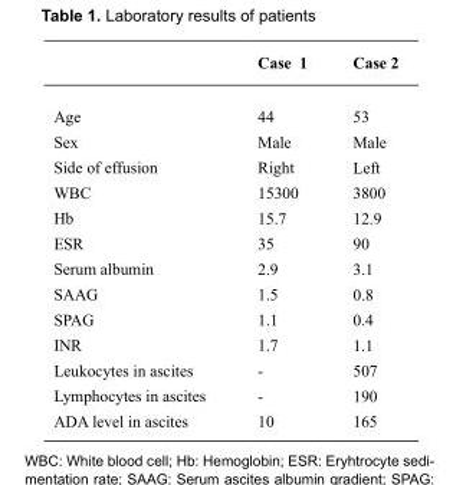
<table><thead><tr><td></td><td>Case 1</td><td>Case 2</td></tr></thead><tbody><tr><td>Age</td><td>44</td><td>53</td></tr><tr><td>Sex</td><td>Male</td><td>Male</td></tr><tr><td>Side of effusion</td><td>Right</td><td>Left</td></tr><tr><td>WBC</td><td>15300</td><td>3800</td></tr><tr><td>Hb</td><td>15.7</td><td>12.9</td></tr><tr><td>ESR</td><td>35</td><td>90</td></tr><tr><td>Serum albumin</td><td>2.9</td><td>3.1</td></tr><tr><td>SAAG</td><td>1.5</td><td>0.8</td></tr><tr><td>SPAG</td><td>1.1</td><td>0.4</td></tr><tr><td>INR</td><td>1.7</td><td>1.1</td></tr><tr><td>Leukocytes in ascites</td><td>-</td><td>507</td></tr><tr><td>Lymphocytes in ascites</td><td>-</td><td>190</td></tr><tr><td>ADA level in ascites</td><td>10</td><td>165</td></tr></tbody></table>